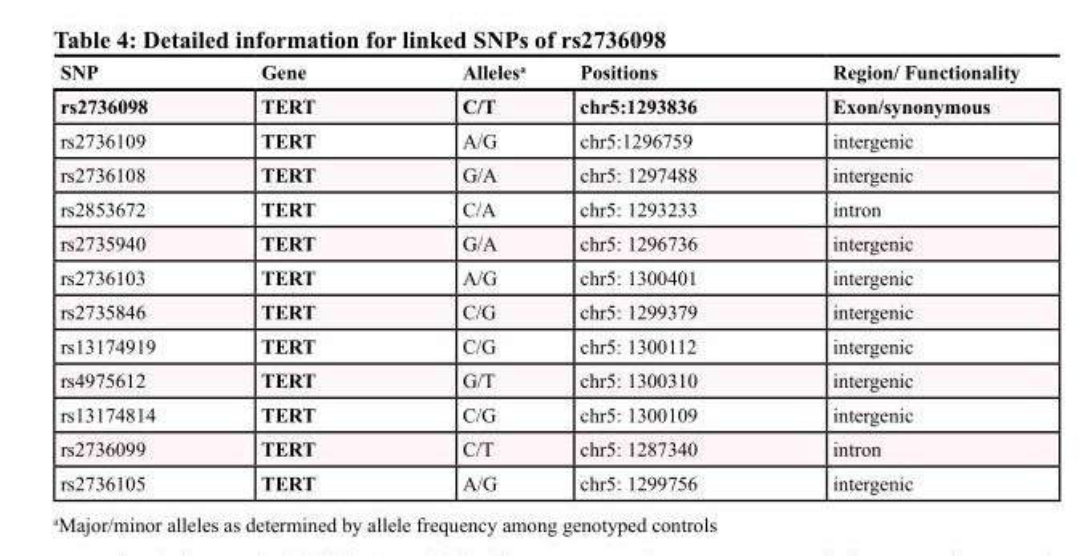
<table><thead><tr><td>SNP</td><td>Gene</td><td>Alleles<sup>a</sup></td><td>Positions</td><td>Region/ Functionality</td></tr></thead><tbody><tr><td>rs2736098</td><td>TERT</td><td>C/T</td><td>chr5:1293836</td><td>Exon/synonymous</td></tr><tr><td>rs2736109</td><td>TERT</td><td>A/G</td><td>chr5:1296759</td><td>intergenic</td></tr><tr><td>rs2736108</td><td>TERT</td><td>G/A</td><td>chr5: 1297488</td><td>intergenic</td></tr><tr><td>rs2853672</td><td>TERT</td><td>C/A</td><td>chr5: 1293233</td><td>intron</td></tr><tr><td>rs2735940</td><td>TERT</td><td>G/A</td><td>chr5: 1296736</td><td>intergenic</td></tr><tr><td>rs2736103</td><td>TERT</td><td>A/G</td><td>chr5: 1300401</td><td>intergenic</td></tr><tr><td>rs2735846</td><td>TERT</td><td>C/G</td><td>chr5: 1299379</td><td>intergenic</td></tr><tr><td>rs13174919</td><td>TERT</td><td>C/G</td><td>chr5: 1300112</td><td>intergenic</td></tr><tr><td>rs4975612</td><td>TERT</td><td>G/T</td><td>chr5: 1300310</td><td>intergenic</td></tr><tr><td>rs13174814</td><td>TERT</td><td>C/G</td><td>chr5: 1300109</td><td>intergenic</td></tr><tr><td>rs2736099</td><td>TERT</td><td>C/T</td><td>chr5: 1287340</td><td>intron</td></tr><tr><td>rs2736105</td><td>TERT</td><td>A/G</td><td>chr5: 1299756</td><td>intergenic</td></tr></tbody></table>